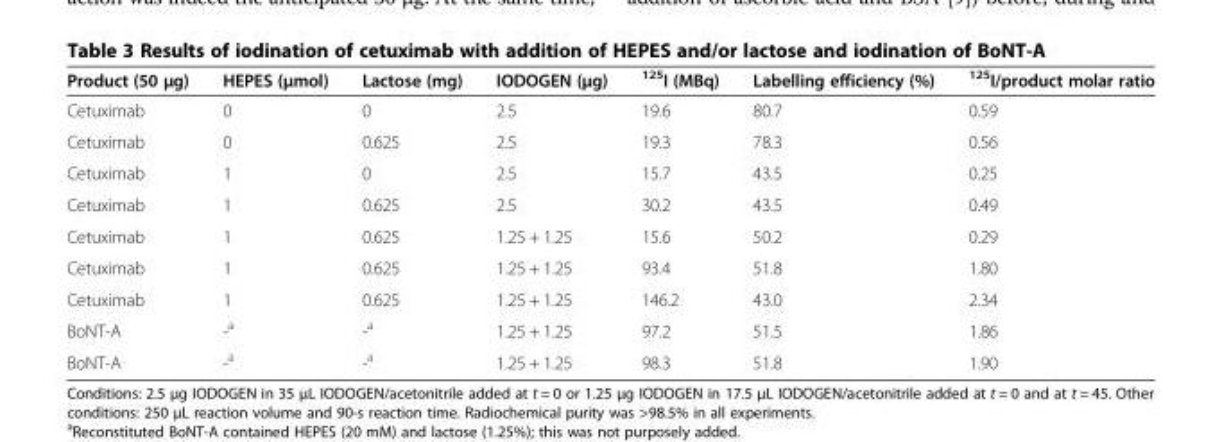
<table><thead><tr><td>Product (50 μg)</td><td>HEPES (μmol)</td><td>Lactose (mg)</td><td>IODOGEN (μg)</td><td><sup>125</sup>I (MBq)</td><td>Labelling efficiency (%)</td><td><sup>125</sup>I/product molar ratio</td></tr></thead><tbody><tr><td>Cetuximab</td><td>0</td><td>0</td><td>2.5</td><td>19.6</td><td>80.7</td><td>0.59</td></tr><tr><td>Cetuximab</td><td>0</td><td>0.625</td><td>2.5</td><td>19.3</td><td>78.3</td><td>0.56</td></tr><tr><td>Cetuximab</td><td>1</td><td>0</td><td>2.5</td><td>15.7</td><td>43.5</td><td>0.25</td></tr><tr><td>Cetuximab</td><td>1</td><td>0.625</td><td>2.5</td><td>30.2</td><td>43.5</td><td>0.49</td></tr><tr><td>Cetuximab</td><td>1</td><td>0.625</td><td>1.25 + 1.25</td><td>15.6</td><td>50.2</td><td>0.29</td></tr><tr><td>Cetuximab</td><td>1</td><td>0.625</td><td>1.25 + 1.25</td><td>93.4</td><td>51.8</td><td>1.80</td></tr><tr><td>Cetuximab</td><td>1</td><td>0.625</td><td>1.25 + 1.25</td><td>146.2</td><td>43.0</td><td>2.34</td></tr><tr><td>BoNT-A</td><td>-<sup>a</sup></td><td>-<sup>a</sup></td><td>1.25 + 1.25</td><td>97.2</td><td>51.5</td><td>1.86</td></tr><tr><td>BoNT-A</td><td>-<sup>a</sup></td><td>-<sup>a</sup></td><td>1.25 + 1.25</td><td>98.3</td><td>51.8</td><td>1.90</td></tr></tbody></table>